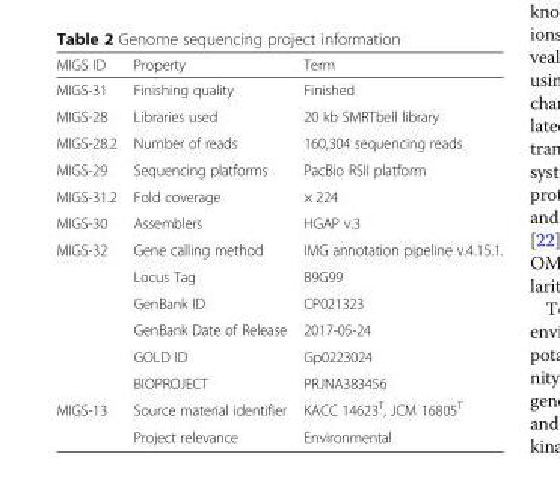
<table><thead><tr><td>MIGS ID</td><td>Property</td><td>Term</td></tr></thead><tbody><tr><td>MIGS-31</td><td>Finishing quality</td><td>Finished</td></tr><tr><td>MIGS-28</td><td>Libraries used</td><td>20 kb SMRTbell library</td></tr><tr><td>MIGS-28.2</td><td>Number of reads</td><td>160,304 sequencing reads</td></tr><tr><td>MIGS-29</td><td>Sequencing platforms</td><td>PacBio RSII platform</td></tr><tr><td>MIGS-31.2</td><td>Fold coverage</td><td>× 224</td></tr><tr><td>MIGS-30</td><td>Assemblers</td><td>HGAP v.3</td></tr><tr><td rowspan="6">MIGS-32</td><td>Gene calling method</td><td>IMG annotation pipeline v.4.15.1.</td></tr><tr><td>Locus Tag</td><td>B9G99</td></tr><tr><td>GenBank ID</td><td>CP021323</td></tr><tr><td>GenBank Date of Release</td><td>2017-05-24</td></tr><tr><td>GOLD ID</td><td>Gp0223024</td></tr><tr><td>BIOPROJECT</td><td>PRJNA383456</td></tr><tr><td rowspan="2">MIGS-13</td><td>Source material identifier</td><td>KACC 14623<sup>T</sup>, JCM 16805<sup>T</sup></td></tr><tr><td>Project relevance</td><td>Environmental</td></tr></tbody></table>